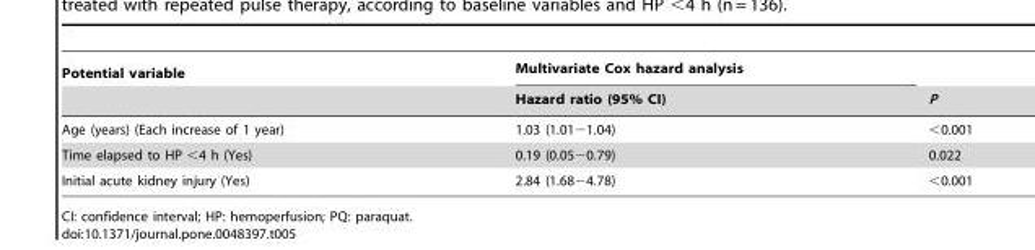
<table><thead><tr><td rowspan="2">Potential variable</td><td rowspan="2">Multivariate Cox hazard analysis Hazard ratio (95% CI)</td><td rowspan="2">P</td></tr><tr></tr></thead><tbody><tr><td>Age (years) (Each increase of 1 year)</td><td>1.03 (1.01−1.04)</td><td>&lt;0.001</td></tr><tr><td>Time elapsed to HP &lt;4 h (Yes)</td><td>0.19 (0.05−0.79)</td><td>0.022</td></tr><tr><td>Initial acute kidney injury (Yes)</td><td>2.84 (1.68−4.78)</td><td>&lt;0.001</td></tr></tbody></table>